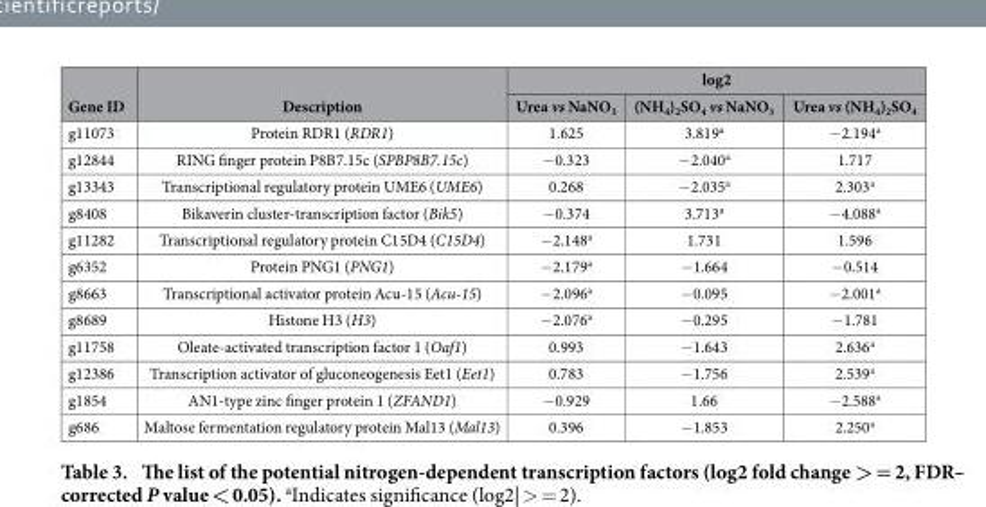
<table><thead><tr><td rowspan="2">Gene ID</td><td rowspan="2">Description</td><td colspan="3">log2</td></tr><tr><td>Urea vs NaNO<sub>3</sub></td><td>(NH<sub>4</sub>)<sub>2</sub>SO<sub>4</sub> vs NaNO<sub>3</sub></td><td>Urea vs (NH<sub>4</sub>)<sub>2</sub>SO<sub>4</sub></td></tr></thead><tbody><tr><td>g11073</td><td>Protein RDR1 (RDR1)</td><td>1.625</td><td>3.819<sup>a</sup></td><td>− 2.194<sup>a</sup></td></tr><tr><td>g12844</td><td>RING finger protein P8B7.15c (SPBP8B7.15c)</td><td>− 0.323</td><td>− 2.040<sup>a</sup></td><td>1.717</td></tr><tr><td>g13343</td><td>Transcriptional regulatory protein UME6 (UME6)</td><td>0.268</td><td>− 2.035<sup>a</sup></td><td>2.303<sup>a</sup></td></tr><tr><td>g8408</td><td>Bikaverin cluster-transcription factor (Bik5)</td><td>− 0.374</td><td>3.713<sup>a</sup></td><td>− 4.088<sup>a</sup></td></tr><tr><td>g11282</td><td>Transcriptional regulatory protein C15D4 (C15D4)</td><td>− 2.148<sup>a</sup></td><td>1.731</td><td>1.596</td></tr><tr><td>g6352</td><td>Protein PNG1 (PNG1)</td><td>− 2.179<sup>a</sup></td><td>− 1.664</td><td>− 0.514</td></tr><tr><td>g8663</td><td>Transcriptional activator protein Acu-15 (Acu-15)</td><td>− 2.096<sup>a</sup></td><td>− 0.095</td><td>− 2.001<sup>a</sup></td></tr><tr><td>g8689</td><td>Histone H3 (H3)</td><td>− 2.076<sup>a</sup></td><td>− 0.295</td><td>− 1.781</td></tr><tr><td>g11758</td><td>Oleate-activated transcription factor 1 (Oaf1)</td><td>0.993</td><td>− 1.643</td><td>2.636<sup>a</sup></td></tr><tr><td>g12386</td><td>Transcription activator of gluconeogenesis Eet1 (Eet1)</td><td>0.783</td><td>− 1.756</td><td>2.539<sup>a</sup></td></tr><tr><td>g1854</td><td>AN1-type zinc finger protein 1 (ZFAND1)</td><td>− 0.929</td><td>1.66</td><td>− 2.588<sup>a</sup></td></tr><tr><td>g686</td><td>Maltose fermentation regulatory protein Mal13 (Mal13)</td><td>0.396</td><td>− 1.853</td><td>2.250<sup>a</sup></td></tr></tbody></table>